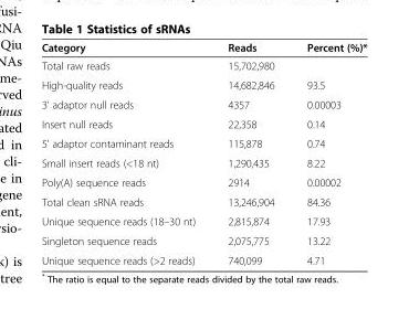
<table><thead><tr><td>Category</td><td>Reads</td><td>Percent (%)*</td></tr></thead><tbody><tr><td>Total raw reads</td><td>15,702,980</td><td></td></tr><tr><td>High-quality reads</td><td>14,682,846</td><td>93.5</td></tr><tr><td>3&#x27; adaptor null reads</td><td>4357</td><td>0.00003</td></tr><tr><td>Insert null reads</td><td>22,358</td><td>0.14</td></tr><tr><td>5&#x27; adaptor contaminant reads</td><td>115,878</td><td>0.74</td></tr><tr><td>Small insert reads (&lt;18 nt)</td><td>1,290,435</td><td>8.22</td></tr><tr><td>Poly(A) sequence reads</td><td>2914</td><td>0.00002</td></tr><tr><td>Total clean sRNA reads</td><td>13,246,904</td><td>84.36</td></tr><tr><td>Unique sequence reads (18–30 nt)</td><td>2,815,874</td><td>17.93</td></tr><tr><td>Singleton sequence reads</td><td>2,075,775</td><td>13.22</td></tr><tr><td>Unique sequence reads (&gt;2 reads)</td><td>740,099</td><td>4.71</td></tr></tbody></table>